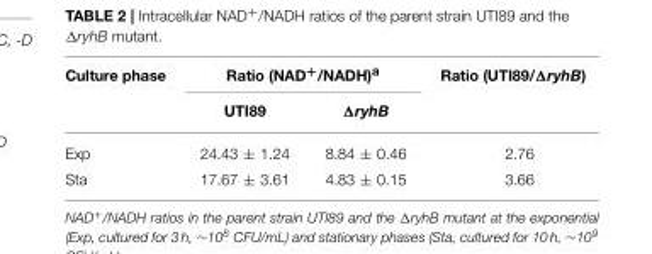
<table><thead><tr><td rowspan="2">Culture phase</td><td colspan="2">Ratio (NAD<sup>+</sup>/NADH)<sup>a</sup></td><td rowspan="2">Ratio (UTI89/ΔryhB)</td></tr><tr><td>UTI89</td><td>ΔryhB</td></tr></thead><tbody><tr><td>Exp</td><td>24.43 ± 1.24</td><td>8.84 ± 0.46</td><td>2.76</td></tr><tr><td>Sta</td><td>17.67 ± 3.61</td><td>4.83 ± 0.15</td><td>3.66</td></tr></tbody></table>